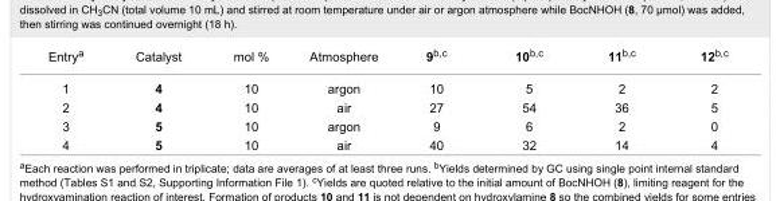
<table><tbody><tr><td>Entry<sup>a</sup></td><td>Catalyst</td><td>mol %</td><td>Atmosphere</td><td>9<sup>b,c</sup></td><td>10<sup>b,c</sup></td><td>11<sup>b,c</sup></td><td>12<sup>b,c</sup></td></tr><tr><td>1</td><td>4</td><td>10</td><td>argon</td><td>10</td><td>5</td><td>2</td><td>2</td></tr><tr><td>2</td><td>4</td><td>10</td><td>air</td><td>27</td><td>54</td><td>36</td><td>5</td></tr><tr><td>3</td><td>5</td><td>10</td><td>argon</td><td>9</td><td>6</td><td>2</td><td>0</td></tr><tr><td>4</td><td>5</td><td>10</td><td>air</td><td>40</td><td>32</td><td>14</td><td>4</td></tr></tbody></table>